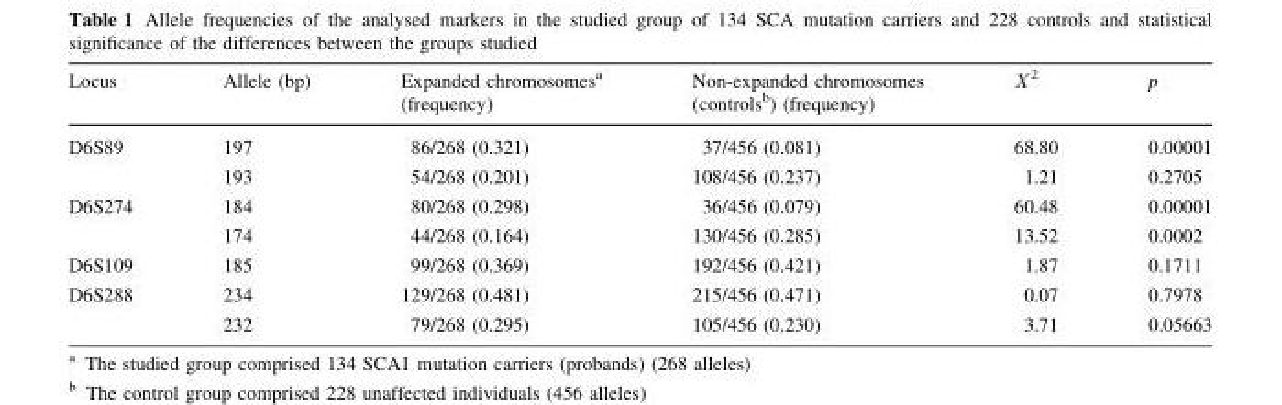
<table><thead><tr><td>Locus</td><td>Allele (bp)</td><td>Expanded chromosomes<sup>a</sup> (frequency)</td><td>Non-expanded chromosomes (controls<sup>b</sup>) (frequency)</td><td>Χ<sup>2</sup></td><td>p</td></tr></thead><tbody><tr><td rowspan="2">D6S89</td><td>197</td><td>86/268 (0.321)</td><td>37/456 (0.081)</td><td>68.80</td><td>0.00001</td></tr><tr><td>193</td><td>54/268 (0.201)</td><td>108/456 (0.237)</td><td>1.21</td><td>0.2705</td></tr><tr><td rowspan="2">D6S274</td><td>184</td><td>80/268 (0.298)</td><td>36/456 (0.079)</td><td>60.48</td><td>0.00001</td></tr><tr><td>174</td><td>44/268 (0.164)</td><td>130/456 (0.285)</td><td>13.52</td><td>0.0002</td></tr><tr><td>D6S109</td><td>185</td><td>99/268 (0.369)</td><td>192/456 (0.421)</td><td>1.87</td><td>0.1711</td></tr><tr><td rowspan="2">D6S288</td><td>234</td><td>129/268 (0.481)</td><td>215/456 (0.471)</td><td>0.07</td><td>0.7978</td></tr><tr><td>232</td><td>79/268 (0.295)</td><td>105/456 (0.230)</td><td>3.71</td><td>0.05663</td></tr></tbody></table>